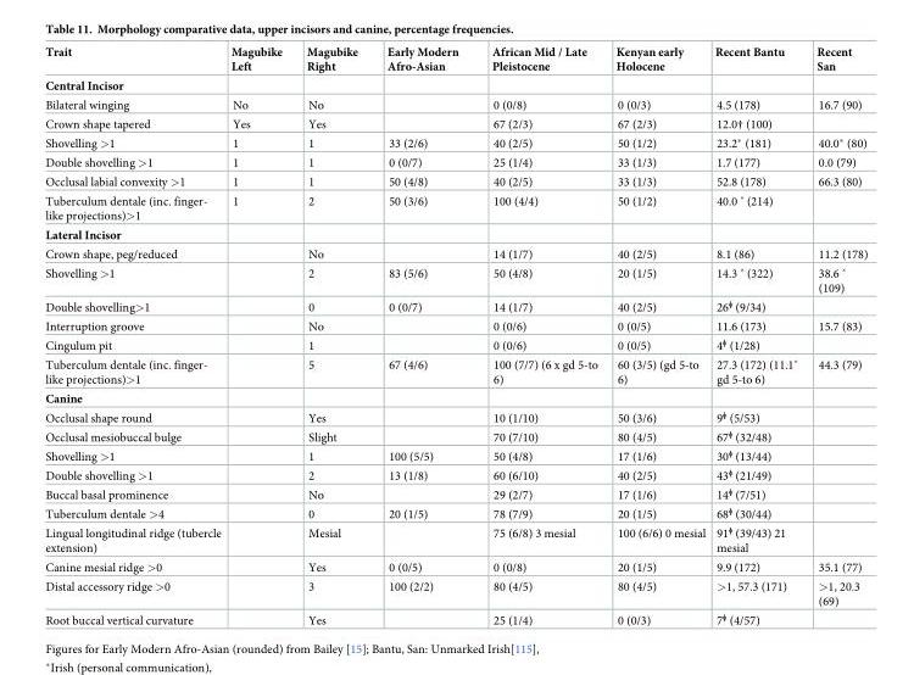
<table><thead><tr><td>Trait</td><td>Magubike Left</td><td>Magubike Right</td><td>Early Modern Afro-Asian</td><td>African Mid / Late Pleistocene</td><td>Kenyan early Holocene</td><td>Recent Bantu</td><td>Recent San</td></tr></thead><tbody><tr><td colspan="8">Central Incisor</td></tr><tr><td>Bilateral winging</td><td>No</td><td>No</td><td></td><td>0 (0/8)</td><td>0 (0/3)</td><td>4.5 (178)</td><td>16.7 (90)</td></tr><tr><td>Crown shape tapered</td><td>Yes</td><td>Yes</td><td></td><td>67 (2/3)</td><td>67 (2/3)</td><td>12.0† (100)</td><td></td></tr><tr><td>Shovelling &gt;1</td><td>1</td><td>1</td><td>33 (2/6)</td><td>40 (2/5)</td><td>50 (1/2)</td><td>23.2* (181)</td><td>40.0* (80)</td></tr><tr><td>Double shovelling &gt;1</td><td>1</td><td>1</td><td>0 (0/7)</td><td>25 (1/4)</td><td>33 (1/3)</td><td>1.7 (177)</td><td>0.0 (79)</td></tr><tr><td>Occlusal labial convexity &gt;1</td><td>1</td><td>1</td><td>50 (4/8)</td><td>40 (2/5)</td><td>33 (1/3)</td><td>52.8 (178)</td><td>66.3 (80)</td></tr><tr><td>Tuberculum dentale (inc. finger- like projections)&gt;1</td><td>1</td><td>2</td><td>50 (3/6)</td><td>100 (4/4)</td><td>50 (1/2)</td><td>40.0 ˟ (214)</td><td></td></tr><tr><td colspan="8">Lateral Incisor</td></tr><tr><td>Crown shape, peg/reduced</td><td></td><td>No</td><td></td><td>14 (1/7)</td><td>40 (2/5)</td><td>8.1 (86)</td><td>11.2 (178)</td></tr><tr><td>Shovelling &gt;1</td><td></td><td>2</td><td>83 (5/6)</td><td>50 (4/8)</td><td>20 (1/5)</td><td>14.3 ˟ (322)</td><td>38.6 ˟ (109)</td></tr><tr><td>Double shovelling&gt;1</td><td></td><td>0</td><td>0 (0/7)</td><td>14 (1/7)</td><td>40 (2/5)</td><td>26ᶲ (9/34)</td><td></td></tr><tr><td>Interruption groove</td><td></td><td>No</td><td></td><td>0 (0/6)</td><td>0 (0/5)</td><td>11.6 (173)</td><td>15.7 (83)</td></tr><tr><td>Cingulum pit</td><td></td><td>1</td><td></td><td>0 (0/6)</td><td>0 (0/5)</td><td>4ᶲ (1/28)</td><td></td></tr><tr><td>Tuberculum dentale (inc. finger- like projections)&gt;1</td><td></td><td>5</td><td>67 (4/6)</td><td>100 (7/7) (6 x gd 5-to 6)</td><td>60 (3/5) (gd 5-to 6)</td><td>27.3 (172) (11.1˟ gd 5-to 6)</td><td>44.3 (79)</td></tr><tr><td colspan="8">Canine</td></tr><tr><td>Occlusal shape round</td><td></td><td>Yes</td><td></td><td>10 (1/10)</td><td>50 (3/6)</td><td>9ᶲ (5/53)</td><td></td></tr><tr><td>Occlusal mesiobuccal bulge</td><td></td><td>Slight</td><td></td><td>70 (7/10)</td><td>80 (4/5)</td><td>67ᶲ (32/48)</td><td></td></tr><tr><td>Shovelling &gt;1</td><td></td><td>1</td><td>100 (5/5)</td><td>50 (4/8)</td><td>17 (1/6)</td><td>30ᶲ (13/44)</td><td></td></tr><tr><td>Double shovelling &gt;1</td><td></td><td>2</td><td>13 (1/8)</td><td>60 (6/10)</td><td>40 (2/5)</td><td>43ᶲ (21/49)</td><td></td></tr><tr><td>Buccal basal prominence</td><td></td><td>No</td><td></td><td>29 (2/7)</td><td>17 (1/6)</td><td>14ᶲ (7/51)</td><td></td></tr><tr><td>Tuberculum dentale &gt;4</td><td></td><td>0</td><td>20 (1/5)</td><td>78 (7/9)</td><td>20 (1/5)</td><td>68ᶲ (30/44)</td><td></td></tr><tr><td>Lingual longitudinal ridge (tubercle extension)</td><td></td><td>Mesial</td><td></td><td>75 (6/8) 3 mesial</td><td>100 (6/6) 0 mesial</td><td>91ᶲ (39/43) 21 mesial</td><td></td></tr><tr><td>Canine mesial ridge &gt;0</td><td></td><td>Yes</td><td>0 (0/5)</td><td>0 (0/8)</td><td>20 (1/5)</td><td>9.9 (172)</td><td>35.1 (77)</td></tr><tr><td>Distal accessory ridge &gt;0</td><td></td><td>3</td><td>100 (2/2)</td><td>80 (4/5)</td><td>80 (4/5)</td><td>&gt;1, 57.3 (171)</td><td>&gt;1, 20.3 (69)</td></tr><tr><td>Root buccal vertical curvature</td><td></td><td>Yes</td><td></td><td>25 (1/4)</td><td>0 (0/3)</td><td>7ᶲ (4/57)</td><td></td></tr></tbody></table>